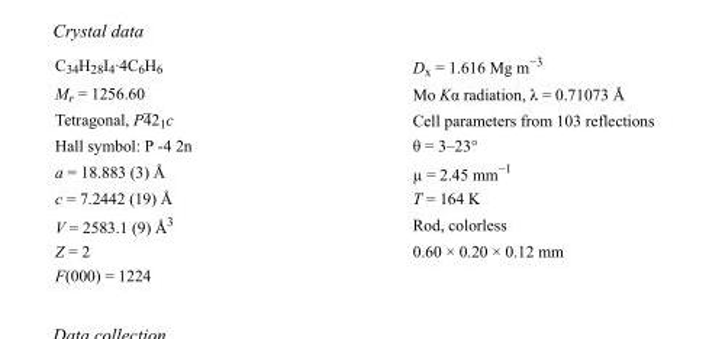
<table><tbody><tr><td>C<sub>34</sub>H<sub>28</sub>I<sub>4</sub>·4C<sub>6</sub>H<sub>6</sub></td><td>D<sub>x</sub> = 1.616 Mg m<sup>−3</sup></td></tr><tr><td>M<sub>r</sub> = 1256.60</td><td>Mo Kα radiation, λ = 0.71073 Å</td></tr><tr><td>Tetragonal, P42<sub>1</sub>c</td><td>Cell parameters from 103 reflections</td></tr><tr><td>Hall symbol: P -4 2n</td><td>θ = 3–23°</td></tr><tr><td>a = 18.883 (3) Å</td><td>µ = 2.45 mm<sup>−1</sup></td></tr><tr><td>c = 7.2442 (19) Å</td><td>T = 164 K</td></tr><tr><td>V = 2583.1 (9) Å<sup>3</sup></td><td>Rod, colorless</td></tr><tr><td>Z = 2</td><td>0.60 × 0.20 × 0.12 mm</td></tr><tr><td>F(000) = 1224</td><td></td></tr></tbody></table>